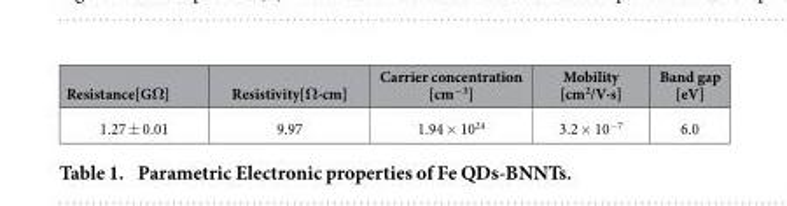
<table><thead><tr><td>Resistance[GΩ]</td><td>Resistivity[Ω·cm]</td><td>Carrier concentration [cm<sup>−3</sup>]</td><td>Mobility [cm<sup>2</sup>/V·s]</td><td>Band gap [eV]</td></tr></thead><tbody><tr><td>1.27 ± 0.01</td><td>9.97</td><td>1.94 × 10<sup>24</sup></td><td>3.2 × 10<sup>−7</sup></td><td>6.0</td></tr></tbody></table>